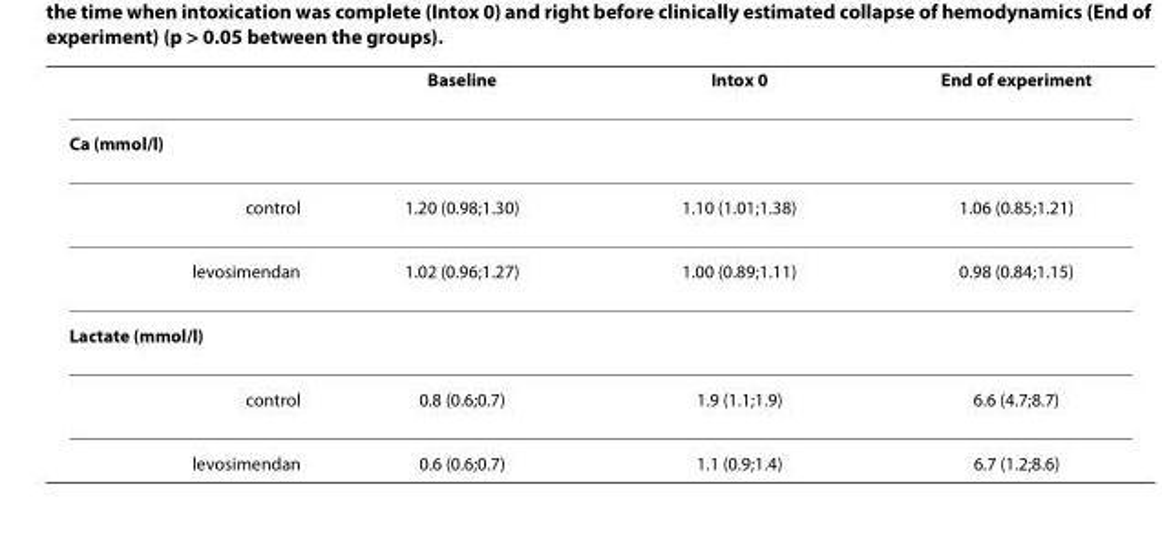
<table><thead><tr><td></td><td>Baseline</td><td>Intox 0</td><td>End of experiment</td></tr></thead><tbody><tr><td colspan="4">Ca (mmol/l)</td></tr><tr><td>control</td><td>1.20 (0.98;1.30)</td><td>1.10 (1.01;1.38)</td><td>1.06 (0.85;1.21)</td></tr><tr><td>levosimendan</td><td>1.02 (0.96;1.27)</td><td>1.00 (0.89;1.11)</td><td>0.98 (0.84;1.15)</td></tr><tr><td colspan="4">Lactate (mmol/l)</td></tr><tr><td>control</td><td>0.8 (0.6;0.7)</td><td>1.9 (1.1;1.9)</td><td>6.6 (4.7;8.7)</td></tr><tr><td>levosimendan</td><td>0.6 (0.6;0.7)</td><td>1.1 (0.9;1.4)</td><td>6.7 (1.2;8.6)</td></tr></tbody></table>